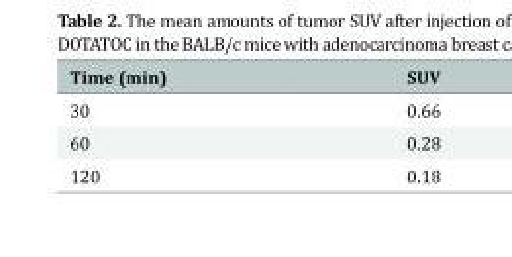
<table><thead><tr><td>Time (min)</td><td>SUV</td></tr></thead><tbody><tr><td>30</td><td>0.66</td></tr><tr><td>60</td><td>0.28</td></tr><tr><td>120</td><td>0.18</td></tr></tbody></table>